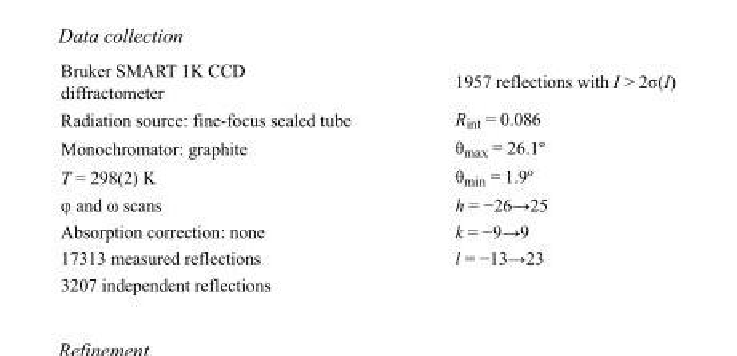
<table><tbody><tr><td>Bruker SMART 1K CCD diffractometer</td><td>1957 reflections with I &gt; 2σ(I)</td></tr><tr><td>Radiation source: fine-focus sealed tube</td><td>R<sub>int</sub> = 0.086</td></tr><tr><td>Monochromator: graphite</td><td>θ<sub>max</sub> = 26.1º</td></tr><tr><td>T = 298(2) K</td><td>θ<sub>min</sub> = 1.9º</td></tr><tr><td>φ and ω scans</td><td>h = −26→25</td></tr><tr><td>Absorption correction: none</td><td>k = −9→9</td></tr><tr><td>17313 measured reflections</td><td>l = −13→23</td></tr><tr><td>3207 independent reflections</td><td></td></tr></tbody></table>